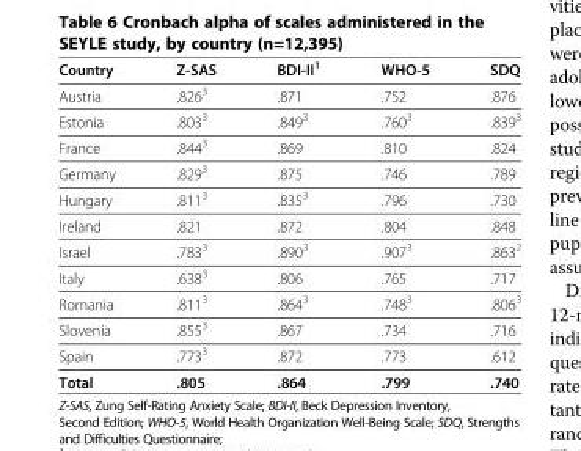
<table><thead><tr><td>Country</td><td>Z-SAS</td><td>BDI-II<sup>1</sup></td><td>WHO-5</td><td>SDQ</td></tr></thead><tbody><tr><td>Austria</td><td>.826<sup>3</sup></td><td>.871</td><td>.752</td><td>.876</td></tr><tr><td>Estonia</td><td>.803<sup>3</sup></td><td>.849<sup>3</sup></td><td>.760<sup>3</sup></td><td>.839<sup>3</sup></td></tr><tr><td>France</td><td>.844<sup>3</sup></td><td>.869</td><td>.810</td><td>.824</td></tr><tr><td>Germany</td><td>.829<sup>3</sup></td><td>.875</td><td>.746</td><td>.789</td></tr><tr><td>Hungary</td><td>.811<sup>3</sup></td><td>.835<sup>3</sup></td><td>.796</td><td>.730</td></tr><tr><td>Ireland</td><td>.821</td><td>.872</td><td>.804</td><td>.848</td></tr><tr><td>Israel</td><td>.783<sup>3</sup></td><td>.890<sup>3</sup></td><td>.907<sup>3</sup></td><td>.863<sup>2</sup></td></tr><tr><td>Italy</td><td>.638<sup>3</sup></td><td>.806</td><td>.765</td><td>.717</td></tr><tr><td>Romania</td><td>.811<sup>3</sup></td><td>.864<sup>3</sup></td><td>.748<sup>3</sup></td><td>.806<sup>3</sup></td></tr><tr><td>Slovenia</td><td>.855<sup>3</sup></td><td>.867</td><td>.734</td><td>.716</td></tr><tr><td>Spain</td><td>.773<sup>3</sup></td><td>.872</td><td>.773</td><td>.612</td></tr><tr><td>Total</td><td>.805</td><td>.864</td><td>.799</td><td>.740</td></tr></tbody></table>